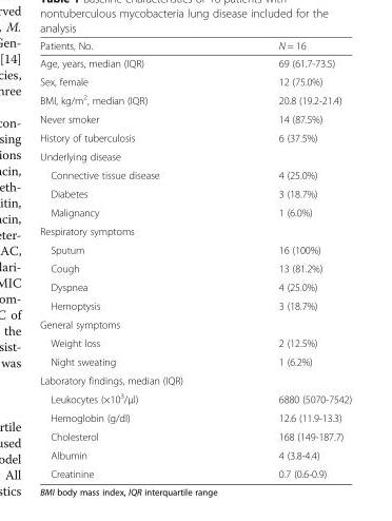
<table><thead><tr><td>Patients, No.</td><td>N = 16</td></tr></thead><tbody><tr><td>Age, years, median (IQR)</td><td>69 (61.7-73.5)</td></tr><tr><td>Sex, female</td><td>12 (75.0%)</td></tr><tr><td>BMI, kg/m<sup>2</sup>, median (IQR)</td><td>20.8 (19.2-21.4)</td></tr><tr><td>Never smoker</td><td>14 (87.5%)</td></tr><tr><td>History of tuberculosis</td><td>6 (37.5%)</td></tr><tr><td colspan="2">Underlying disease</td></tr><tr><td>Connective tissue disease</td><td>4 (25.0%)</td></tr><tr><td>Diabetes</td><td>3 (18.7%)</td></tr><tr><td>Malignancy</td><td>1 (6.0%)</td></tr><tr><td colspan="2">Respiratory symptoms</td></tr><tr><td>Sputum</td><td>16 (100%)</td></tr><tr><td>Cough</td><td>13 (81.2%)</td></tr><tr><td>Dyspnea</td><td>4 (25.0%)</td></tr><tr><td>Hemoptysis</td><td>3 (18.7%)</td></tr><tr><td colspan="2">General symptoms</td></tr><tr><td>Weight loss</td><td>2 (12.5%)</td></tr><tr><td>Night sweating</td><td>1 (6.2%)</td></tr><tr><td colspan="2">Laboratory findings, median (IQR)</td></tr><tr><td>Leukocytes (×10<sup>3</sup>/μl)</td><td>6880 (5070-7542)</td></tr><tr><td>Hemoglobin (g/dl)</td><td>12.6 (11.9-13.3)</td></tr><tr><td>Cholesterol</td><td>168 (149-187.7)</td></tr><tr><td>Albumin</td><td>4 (3.8-4.4)</td></tr><tr><td>Creatinine</td><td>0.7 (0.6-0.9)</td></tr></tbody></table>